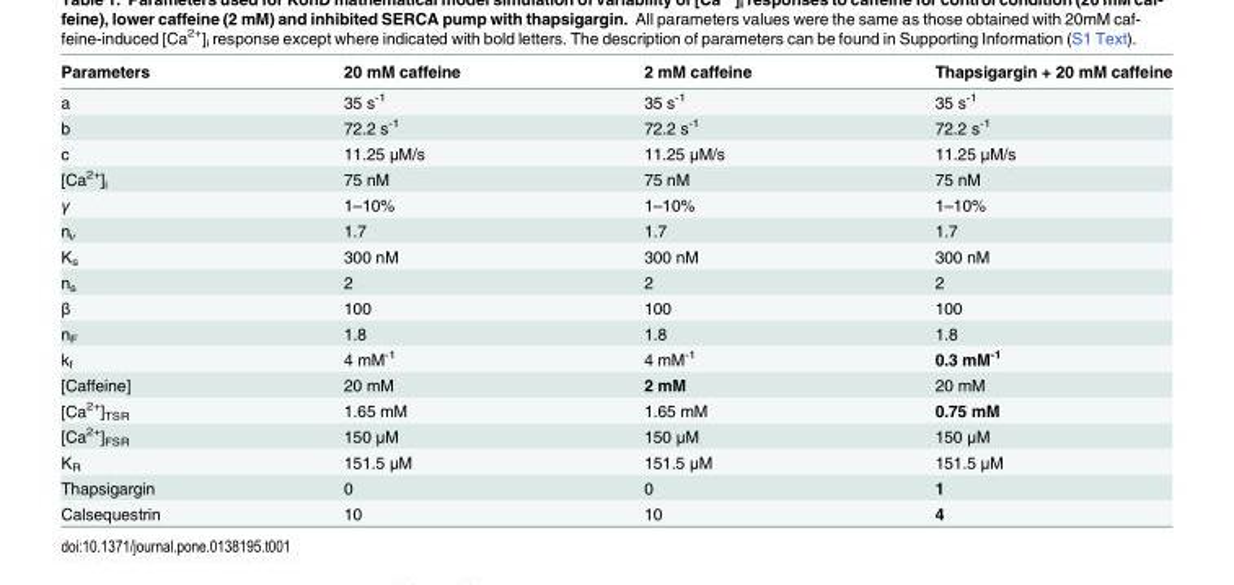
<table><thead><tr><td>Parameters</td><td>20 mM caffeine</td><td>2 mM caffeine</td><td>Thapsigargin + 20 mM caffeine</td></tr></thead><tbody><tr><td>a</td><td>35 s<sup>-1</sup></td><td>35 s<sup>-1</sup></td><td>35 s<sup>-1</sup></td></tr><tr><td>b</td><td>72.2 s<sup>-1</sup></td><td>72.2 s<sup>-1</sup></td><td>72.2 s<sup>-1</sup></td></tr><tr><td>c</td><td>11.25 μM/s</td><td>11.25 μM/s</td><td>11.25 μM/s</td></tr><tr><td>[Ca<sup>2+</sup>]<sub>i</sub></td><td>75 nM</td><td>75 nM</td><td>75 nM</td></tr><tr><td>γ</td><td>1–10%</td><td>1–10%</td><td>1–10%</td></tr><tr><td>n<sub>v</sub></td><td>1.7</td><td>1.7</td><td>1.7</td></tr><tr><td>K<sub>s</sub></td><td>300 nM</td><td>300 nM</td><td>300 nM</td></tr><tr><td>n<sub>s</sub></td><td>2</td><td>2</td><td>2</td></tr><tr><td>β</td><td>100</td><td>100</td><td>100</td></tr><tr><td>n<sub>F</sub></td><td>1.8</td><td>1.8</td><td>1.8</td></tr><tr><td>k<sub>f</sub></td><td>4 mM<sup>-1</sup></td><td>4 mM<sup>-1</sup></td><td>0.3 mM<sup>-1</sup></td></tr><tr><td>[Caffeine]</td><td>20 mM</td><td>2 mM</td><td>20 mM</td></tr><tr><td>[Ca<sup>2+</sup>]<sub>TSR</sub></td><td>1.65 mM</td><td>1.65 mM</td><td>0.75 mM</td></tr><tr><td>[Ca<sup>2+</sup>]<sub>FSR</sub></td><td>150 μM</td><td>150 μM</td><td>150 μM</td></tr><tr><td>K<sub>R</sub></td><td>151.5 μM</td><td>151.5 μM</td><td>151.5 μM</td></tr><tr><td>Thapsigargin</td><td>0</td><td>0</td><td>1</td></tr><tr><td>Calsequestrin</td><td>10</td><td>10</td><td>4</td></tr></tbody></table>